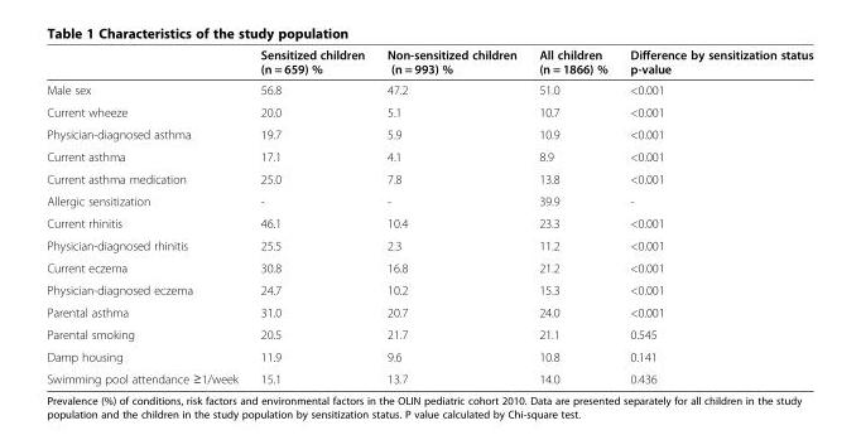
<table><thead><tr><td></td><td>Sensitized children (n = 659) %</td><td>Non-sensitized children (n = 993) %</td><td>All children (n = 1866) %</td><td>Difference by sensitization status p-value</td></tr></thead><tbody><tr><td>Male sex</td><td>56.8</td><td>47.2</td><td>51.0</td><td>&lt;0.001</td></tr><tr><td>Current wheeze</td><td>20.0</td><td>5.1</td><td>10.7</td><td>&lt;0.001</td></tr><tr><td>Physician-diagnosed asthma</td><td>19.7</td><td>5.9</td><td>10.9</td><td>&lt;0.001</td></tr><tr><td>Current asthma</td><td>17.1</td><td>4.1</td><td>8.9</td><td>&lt;0.001</td></tr><tr><td>Current asthma medication</td><td>25.0</td><td>7.8</td><td>13.8</td><td>&lt;0.001</td></tr><tr><td>Allergic sensitization</td><td>-</td><td>-</td><td>39.9</td><td>-</td></tr><tr><td>Current rhinitis</td><td>46.1</td><td>10.4</td><td>23.3</td><td>&lt;0.001</td></tr><tr><td>Physician-diagnosed rhinitis</td><td>25.5</td><td>2.3</td><td>11.2</td><td>&lt;0.001</td></tr><tr><td>Current eczema</td><td>30.8</td><td>16.8</td><td>21.2</td><td>&lt;0.001</td></tr><tr><td>Physician-diagnosed eczema</td><td>24.7</td><td>10.2</td><td>15.3</td><td>&lt;0.001</td></tr><tr><td>Parental asthma</td><td>31.0</td><td>20.7</td><td>24.0</td><td>&lt;0.001</td></tr><tr><td>Parental smoking</td><td>20.5</td><td>21.7</td><td>21.1</td><td>0.545</td></tr><tr><td>Damp housing</td><td>11.9</td><td>9.6</td><td>10.8</td><td>0.141</td></tr><tr><td>Swimming pool attendance ≥1/week</td><td>15.1</td><td>13.7</td><td>14.0</td><td>0.436</td></tr></tbody></table>